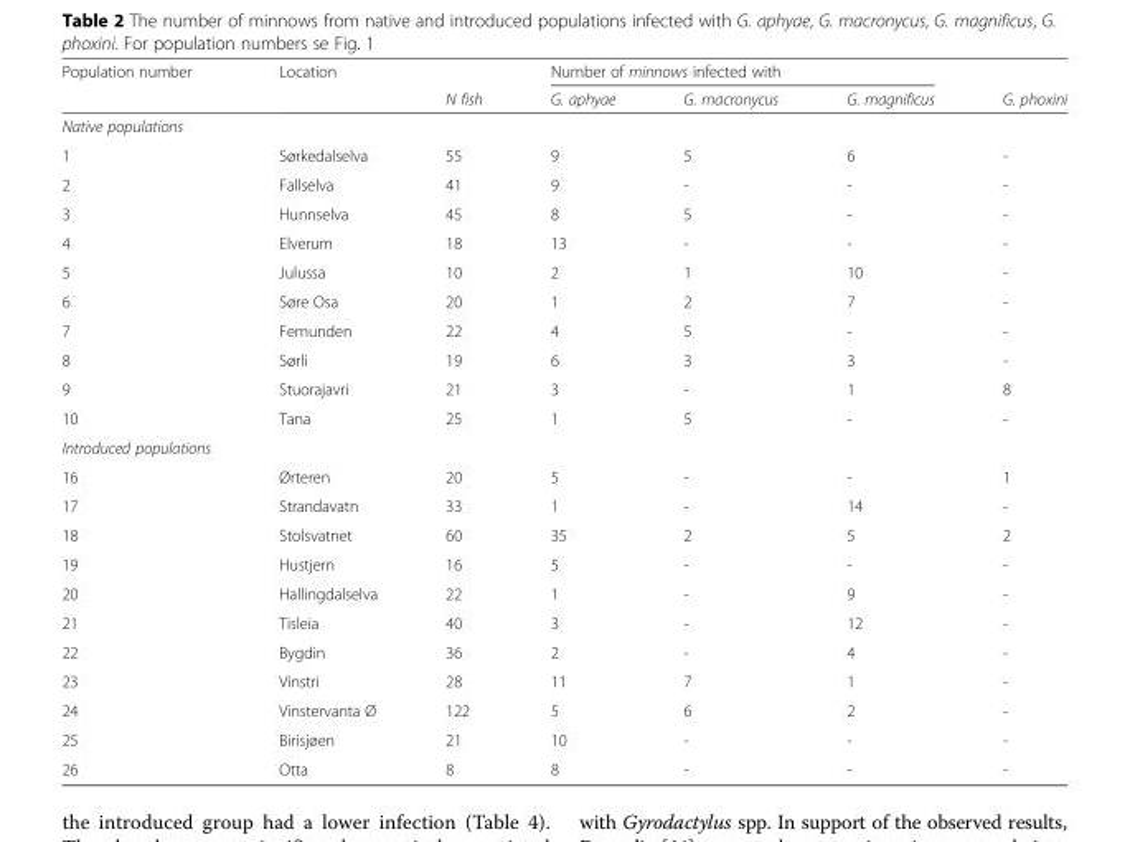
<table><thead><tr><td rowspan="2">Population number</td><td rowspan="2">Location</td><td rowspan="2">N fish</td><td colspan="3">Number of minnows infected with</td><td rowspan="2">G. phoxini</td></tr><tr><td>G. aphyae</td><td>G. macronycus</td><td>G. magnificus</td></tr></thead><tbody><tr><td colspan="7">Native populations</td></tr><tr><td>1</td><td>Sørkedalselva</td><td>55</td><td>9</td><td>5</td><td>6</td><td>-</td></tr><tr><td>2</td><td>Fallselva</td><td>41</td><td>9</td><td>-</td><td>-</td><td>-</td></tr><tr><td>3</td><td>Hunnselva</td><td>45</td><td>8</td><td>5</td><td>-</td><td>-</td></tr><tr><td>4</td><td>Elverum</td><td>18</td><td>13</td><td>-</td><td>-</td><td>-</td></tr><tr><td>5</td><td>Julussa</td><td>10</td><td>2</td><td>1</td><td>10</td><td>-</td></tr><tr><td>6</td><td>Søre Osa</td><td>20</td><td>1</td><td>2</td><td>7</td><td>-</td></tr><tr><td>7</td><td>Femunden</td><td>22</td><td>4</td><td>5</td><td>-</td><td>-</td></tr><tr><td>8</td><td>Sørli</td><td>19</td><td>6</td><td>3</td><td>3</td><td>-</td></tr><tr><td>9</td><td>Stuorajavri</td><td>21</td><td>3</td><td>-</td><td>1</td><td>8</td></tr><tr><td>10</td><td>Tana</td><td>25</td><td>1</td><td>5</td><td>-</td><td>-</td></tr><tr><td colspan="7">Introduced populations</td></tr><tr><td>16</td><td>Ørteren</td><td>20</td><td>5</td><td>-</td><td>-</td><td>1</td></tr><tr><td>17</td><td>Strandavatn</td><td>33</td><td>1</td><td>-</td><td>14</td><td>-</td></tr><tr><td>18</td><td>Stolsvatnet</td><td>60</td><td>35</td><td>2</td><td>5</td><td>2</td></tr><tr><td>19</td><td>Hustjern</td><td>16</td><td>5</td><td>-</td><td>-</td><td>-</td></tr><tr><td>20</td><td>Hallingdalselva</td><td>22</td><td>1</td><td>-</td><td>9</td><td>-</td></tr><tr><td>21</td><td>Tisleia</td><td>40</td><td>3</td><td>-</td><td>12</td><td>-</td></tr><tr><td>22</td><td>Bygdin</td><td>36</td><td>2</td><td>-</td><td>4</td><td>-</td></tr><tr><td>23</td><td>Vinstri</td><td>28</td><td>11</td><td>7</td><td>1</td><td>-</td></tr><tr><td>24</td><td>Vinstervanta Ø</td><td>122</td><td>5</td><td>6</td><td>2</td><td>-</td></tr><tr><td>25</td><td>Birisjøen</td><td>21</td><td>10</td><td>-</td><td>-</td><td>-</td></tr><tr><td>26</td><td>Otta</td><td>8</td><td>8</td><td>-</td><td>-</td><td>-</td></tr></tbody></table>